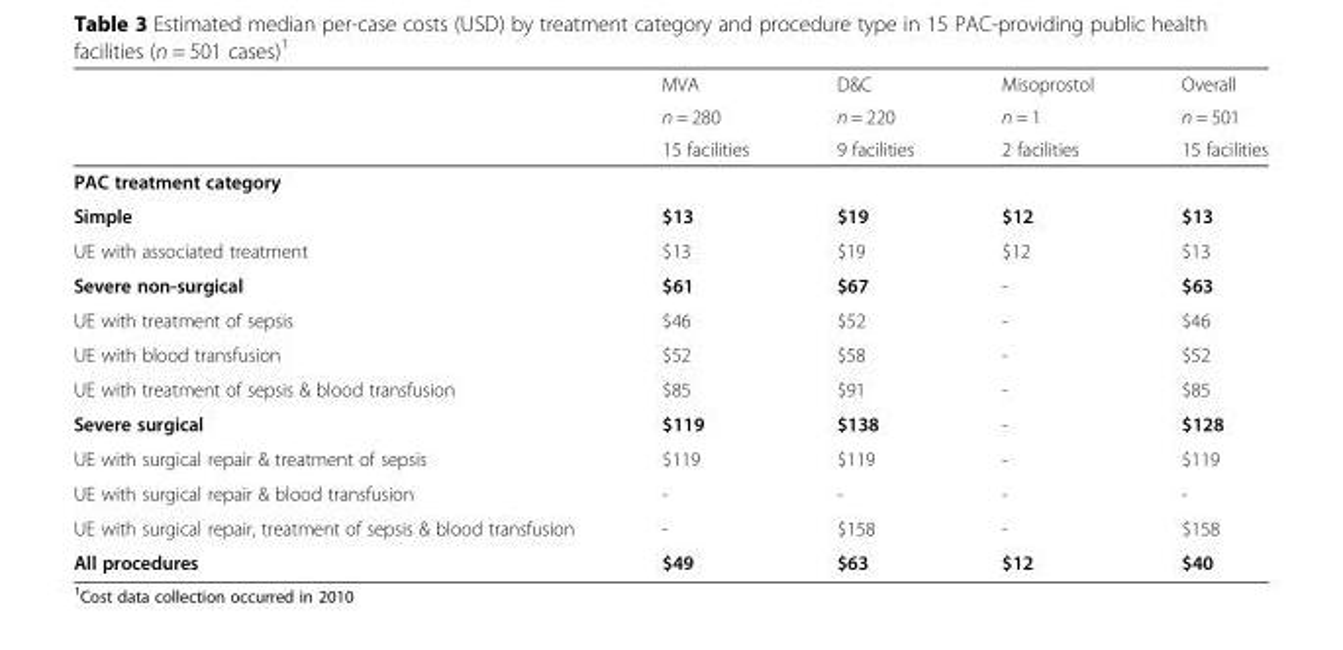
<table><thead><tr><td rowspan="3"></td><td rowspan="3">MVA n = 280 15 facilities</td><td rowspan="3">D&amp;C n = 220 9 facilities</td><td rowspan="3">Misoprostol n = 1 2 facilities</td><td rowspan="3">Overall n = 501 15 facilities</td></tr><tr></tr><tr></tr></thead><tbody><tr><td colspan="5">PAC treatment category</td></tr><tr><td>Simple</td><td>$13</td><td>$19</td><td>$12</td><td>$13</td></tr><tr><td>UE with associated treatment</td><td>$13</td><td>$19</td><td>$12</td><td>$13</td></tr><tr><td>Severe non-surgical</td><td>$61</td><td>$67</td><td>-</td><td>$63</td></tr><tr><td>UE with treatment of sepsis</td><td>$46</td><td>$52</td><td>-</td><td>$46</td></tr><tr><td>UE with blood transfusion</td><td>$52</td><td>$58</td><td>-</td><td>$52</td></tr><tr><td>UE with treatment of sepsis &amp; blood transfusion</td><td>$85</td><td>$91</td><td>-</td><td>$85</td></tr><tr><td>Severe surgical</td><td>$119</td><td>$138</td><td>-</td><td>$128</td></tr><tr><td>UE with surgical repair &amp; treatment of sepsis</td><td>$119</td><td>$119</td><td>-</td><td>$119</td></tr><tr><td>UE with surgical repair &amp; blood transfusion</td><td>-</td><td>-</td><td>-</td><td>-</td></tr><tr><td>UE with surgical repair, treatment of sepsis &amp; blood transfusion</td><td>-</td><td>$158</td><td>-</td><td>$158</td></tr><tr><td>All procedures</td><td>$49</td><td>$63</td><td>$12</td><td>$40</td></tr></tbody></table>